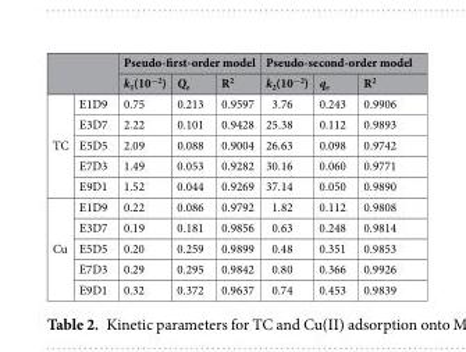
<table><thead><tr><td rowspan="2"></td><td rowspan="2"></td><td colspan="3">Pseudo-first-order model</td><td colspan="3">Pseudo-second-order model</td></tr><tr><td>k<sub>1</sub>(10<sup>−2</sup>)</td><td>Q<sub>e</sub></td><td>R<sup>2</sup></td><td>k<sub>2</sub>(10<sup>−2</sup>)</td><td>q<sub>e</sub></td><td>R<sup>2</sup></td></tr></thead><tbody><tr><td rowspan="5">TC</td><td>E1D9</td><td>0.75</td><td>0.213</td><td>0.9597</td><td>3.76</td><td>0.243</td><td>0.9906</td></tr><tr><td>E3D7</td><td>2.22</td><td>0.101</td><td>0.9428</td><td>25.38</td><td>0.112</td><td>0.9893</td></tr><tr><td>E5D5</td><td>2.09</td><td>0.088</td><td>0.9004</td><td>26.63</td><td>0.098</td><td>0.9742</td></tr><tr><td>E7D3</td><td>1.49</td><td>0.053</td><td>0.9282</td><td>30.16</td><td>0.060</td><td>0.9771</td></tr><tr><td>E9D1</td><td>1.52</td><td>0.044</td><td>0.9269</td><td>37.14</td><td>0.050</td><td>0.9890</td></tr><tr><td rowspan="5">Cu</td><td>E1D9</td><td>0.22</td><td>0.086</td><td>0.9792</td><td>1.82</td><td>0.112</td><td>0.9808</td></tr><tr><td>E3D7</td><td>0.19</td><td>0.181</td><td>0.9856</td><td>0.63</td><td>0.248</td><td>0.9814</td></tr><tr><td>E5D5</td><td>0.20</td><td>0.259</td><td>0.9899</td><td>0.48</td><td>0.351</td><td>0.9853</td></tr><tr><td>E7D3</td><td>0.29</td><td>0.295</td><td>0.9842</td><td>0.80</td><td>0.366</td><td>0.9926</td></tr><tr><td>E9D1</td><td>0.32</td><td>0.372</td><td>0.9637</td><td>0.74</td><td>0.453</td><td>0.9839</td></tr></tbody></table>